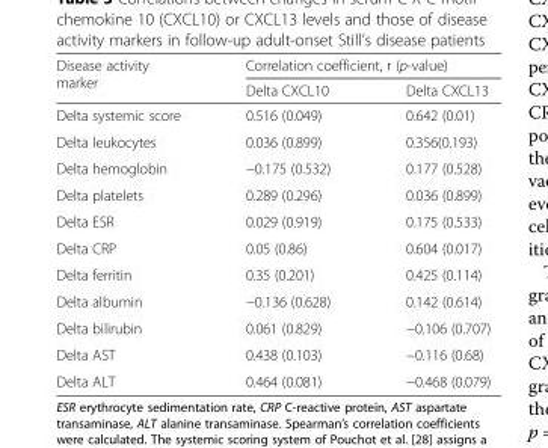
<table><thead><tr><td rowspan="2">Disease activity marker</td><td colspan="2">Correlation coefficient, r (p-value)</td></tr><tr><td>Delta CXCL10</td><td>Delta CXCL13</td></tr></thead><tbody><tr><td>Delta systemic score</td><td>0.516 (0.049)</td><td>0.642 (0.01)</td></tr><tr><td>Delta leukocytes</td><td>0.036 (0.899)</td><td>0.356(0.193)</td></tr><tr><td>Delta hemoglobin</td><td>−0.175 (0.532)</td><td>0.177 (0.528)</td></tr><tr><td>Delta platelets</td><td>0.289 (0.296)</td><td>0.036 (0.899)</td></tr><tr><td>Delta ESR</td><td>0.029 (0.919)</td><td>0.175 (0.533)</td></tr><tr><td>Delta CRP</td><td>0.05 (0.86)</td><td>0.604 (0.017)</td></tr><tr><td>Delta ferritin</td><td>0.35 (0.201)</td><td>0.425 (0.114)</td></tr><tr><td>Delta albumin</td><td>−0.136 (0.628)</td><td>0.142 (0.614)</td></tr><tr><td>Delta bilirubin</td><td>0.061 (0.829)</td><td>−0.106 (0.707)</td></tr><tr><td>Delta AST</td><td>0.438 (0.103)</td><td>−0.116 (0.68)</td></tr><tr><td>Delta ALT</td><td>0.464 (0.081)</td><td>−0.468 (0.079)</td></tr></tbody></table>